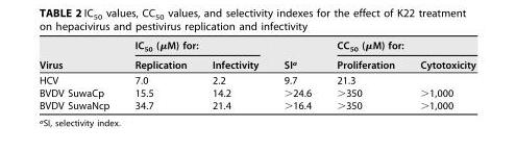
<table><thead><tr><td rowspan="2">Virus</td><td colspan="2">IC<sub>50</sub> (μM) for:</td><td rowspan="2">SI<sup>a</sup></td><td colspan="2">CC<sub>50</sub> (μM) for:</td></tr><tr><td>Replication</td><td>Infectivity</td><td>Proliferation</td><td>Cytotoxicity</td></tr></thead><tbody><tr><td>HCV</td><td>7.0</td><td>2.2</td><td>9.7</td><td>21.3</td><td></td></tr><tr><td>BVDV SuwaCp</td><td>15.5</td><td>14.2</td><td>&gt;24.6</td><td>&gt;350</td><td>&gt;1,000</td></tr><tr><td>BVDV SuwaNcp</td><td>34.7</td><td>21.4</td><td>&gt;16.4</td><td>&gt;350</td><td>&gt;1,000</td></tr></tbody></table>